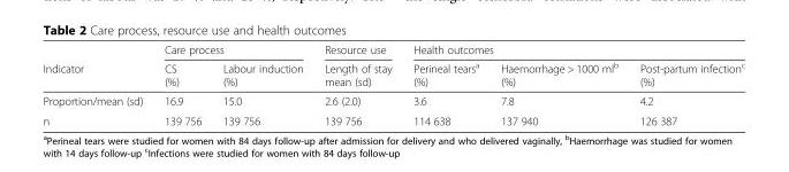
<table><thead><tr><td rowspan="2">Indicator</td><td colspan="2">Care process</td><td rowspan="2">Resource use Length of stay mean (sd)</td><td colspan="3">Health outcomes</td></tr><tr><td>CS (%)</td><td>Labour induction (%)</td><td>Perineal tears<sup>a</sup> (%)</td><td>Haemorrhage &gt; 1000 ml<sup>b</sup> (%)</td><td>Post-partum infection<sup>c</sup> (%)</td></tr></thead><tbody><tr><td>Proportion/mean (sd)</td><td>16.9</td><td>15.0</td><td>2.6 (2.0)</td><td>3.6</td><td>7.8</td><td>4.2</td></tr><tr><td>n</td><td>139 756</td><td>139 756</td><td>139 756</td><td>114 638</td><td>137 940</td><td>126 387</td></tr></tbody></table>